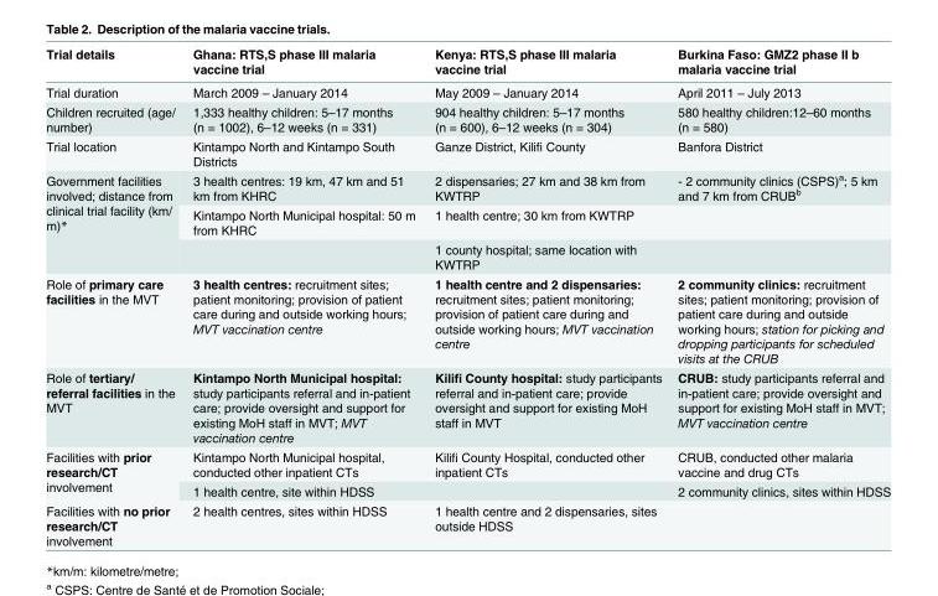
<table><thead><tr><td>Trial details</td><td>Ghana: RTS,S phase III malaria vaccine trial</td><td>Kenya: RTS,S phase III malaria vaccine trial</td><td>Burkina Faso: GMZ2 phase II b malaria vaccine trial</td></tr></thead><tbody><tr><td>Trial duration</td><td>March 2009 – January 2014</td><td>May 2009 – January 2014</td><td>April 2011 – July 2013</td></tr><tr><td>Children recruited (age/ number)</td><td>1,333 healthy children: 5–17 months (n = 1002), 6–12 weeks (n = 331)</td><td>904 healthy children: 5–17 months (n = 600), 6–12 weeks (n = 304)</td><td>580 healthy children:12–60 months (n = 580)</td></tr><tr><td>Trial location</td><td>Kintampo North and Kintampo South Districts</td><td>Ganze District, Kilifi County</td><td>Banfora District</td></tr><tr><td rowspan="3">Government facilities involved; distance from clinical trial facility (km/ m)*</td><td>3 health centres: 19 km, 47 km and 51 km from KHRC</td><td>2 dispensaries; 27 km and 38 km from KWTRP</td><td>- 2 community clinics (CSPS)<sup>a</sup>; 5 km and 7 km from CRUB<sup>b</sup></td></tr><tr><td>Kintampo North Municipal hospital: 50 m from KHRC</td><td>1 health centre; 30 km from KWTRP</td><td></td></tr><tr><td></td><td>1 county hospital; same location with KWTRP</td><td></td></tr><tr><td>Role of primary care facilities in the MVT</td><td>3 health centres: recruitment sites; patient monitoring; provision of patient care during and outside working hours; MVT vaccination centre</td><td>1 health centre and 2 dispensaries: recruitment sites; patient monitoring; provision of patient care during and outside working hours; MVT vaccination centre</td><td>2 community clinics: recruitment sites; patient monitoring; provision of patient care during and outside working hours; station for picking and dropping participants for scheduled visits at the CRUB</td></tr><tr><td>Role of tertiary/ referral facilities in the MVT</td><td>Kintampo North Municipal hospital: study participants referral and in-patient care; provide oversight and support for existing MoH staff in MVT; MVT vaccination centre</td><td>Kilifi County hospital: study participants referral and in-patient care; provide oversight and support for existing MoH staff in MVT</td><td>CRUB: study participants referral and in-patient care; provide oversight and support for existing MoH staff in MVT; MVT vaccination centre</td></tr><tr><td rowspan="2">Facilities with prior research/CT involvement</td><td>Kintampo North Municipal hospital, conducted other inpatient CTs</td><td>Kilifi County Hospital, conducted other inpatient CTs</td><td>CRUB, conducted other malaria vaccine and drug CTs</td></tr><tr><td>1 health centre, site within HDSS</td><td></td><td>2 community clinics, sites within HDSS</td></tr><tr><td>Facilities with no prior research/CT involvement</td><td>2 health centres, sites within HDSS</td><td>1 health centre and 2 dispensaries, sites outside HDSS</td><td></td></tr></tbody></table>